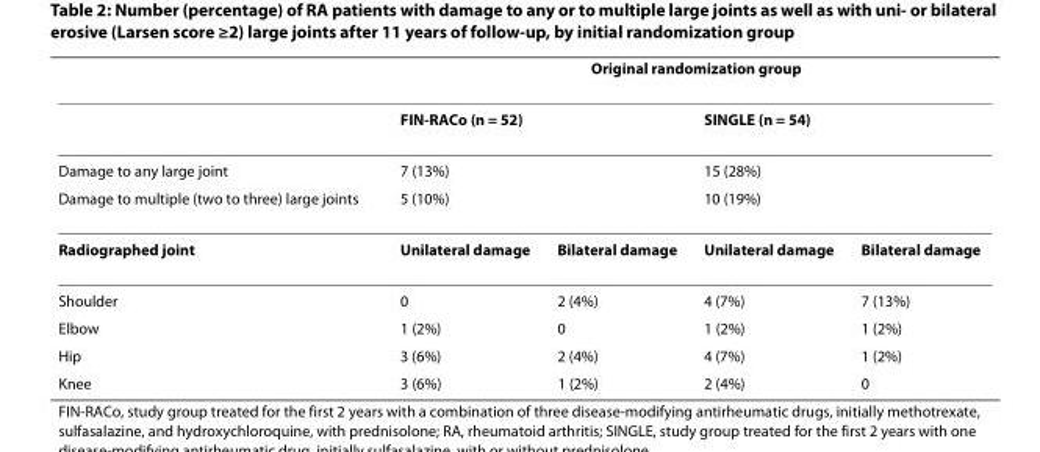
<table><thead><tr><td rowspan="3">Damage to any large joint</td><td colspan="4">Original randomization group</td></tr><tr><td colspan="2">FIN-RACo (n = 52)</td><td colspan="2">SINGLE (n = 54)</td></tr><tr><td>7 (13%)</td><td></td><td>15 (28%)</td><td></td></tr></thead><tbody><tr><td>Damage to multiple (two to three) large joints</td><td>5 (10%)</td><td></td><td>10 (19%)</td><td></td></tr><tr><td>Radiographed joint</td><td>Unilateral damage</td><td>Bilateral damage</td><td>Unilateral damage</td><td>Bilateral damage</td></tr><tr><td>Shoulder</td><td>0</td><td>2 (4%)</td><td>4 (7%)</td><td>7 (13%)</td></tr><tr><td>Elbow</td><td>1 (2%)</td><td>0</td><td>1 (2%)</td><td>1 (2%)</td></tr><tr><td>Hip</td><td>3 (6%)</td><td>2 (4%)</td><td>4 (7%)</td><td>1 (2%)</td></tr><tr><td>Knee</td><td>3 (6%)</td><td>1 (2%)</td><td>2 (4%)</td><td>0</td></tr></tbody></table>